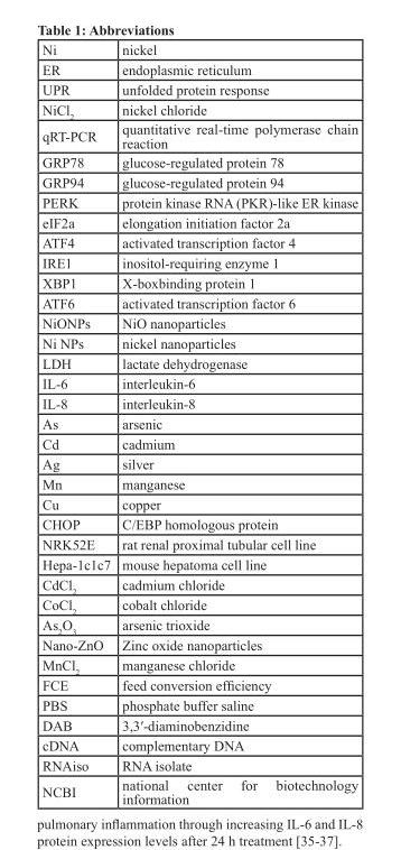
<table><tbody><tr><td>Ni</td><td>nickel</td></tr><tr><td>ER</td><td>endoplasmic reticulum</td></tr><tr><td>UPR</td><td>unfolded protein response</td></tr><tr><td>NiCl<sub>2</sub></td><td>nickel chloride</td></tr><tr><td>qRT-PCR</td><td>quantitative real-time polymerase chain reaction</td></tr><tr><td>GRP78</td><td>glucose-regulated protein 78</td></tr><tr><td>GRP94</td><td>glucose-regulated protein 94</td></tr><tr><td>PERK</td><td>protein kinase RNA (PKR)-like ER kinase</td></tr><tr><td>eIF2a</td><td>elongation initiation factor 2a</td></tr><tr><td>ATF4</td><td>activated transcription factor 4</td></tr><tr><td>IRE1</td><td>inositol-requiring enzyme 1</td></tr><tr><td>XBP1</td><td>X-boxbinding protein 1</td></tr><tr><td>ATF6</td><td>activated transcription factor 6</td></tr><tr><td>NiONPs</td><td>NiO nanoparticles</td></tr><tr><td>Ni NPs</td><td>nickel nanoparticles</td></tr><tr><td>LDH</td><td>lactate dehydrogenase</td></tr><tr><td>IL-6</td><td>interleukin-6</td></tr><tr><td>IL-8</td><td>interleukin-8</td></tr><tr><td>As</td><td>arsenic</td></tr><tr><td>Cd</td><td>cadmium</td></tr><tr><td>Ag</td><td>silver</td></tr><tr><td>Mn</td><td>manganese</td></tr><tr><td>Cu</td><td>copper</td></tr><tr><td>CHOP</td><td>C/EBP homologous protein</td></tr><tr><td>NRK52E</td><td>rat renal proximal tubular cell line</td></tr><tr><td>Hepa-1c1c7</td><td>mouse hepatoma cell line</td></tr><tr><td>CdCl<sub>2</sub></td><td>cadmium chloride</td></tr><tr><td>CoCl<sub>2</sub></td><td>cobalt chloride</td></tr><tr><td>As<sub>2</sub>O<sub>3</sub></td><td>arsenic trioxide</td></tr><tr><td>Nano-ZnO</td><td>Zinc oxide nanoparticles</td></tr><tr><td>MnCl<sub>2</sub></td><td>manganese chloride</td></tr><tr><td>FCE</td><td>feed conversion efficiency</td></tr><tr><td>PBS</td><td>phosphate buffer saline</td></tr><tr><td>DAB</td><td>3,3′-diaminobenzidine</td></tr><tr><td>cDNA</td><td>complementary DNA</td></tr><tr><td>RNAiso</td><td>RNA isolate</td></tr><tr><td>NCBI</td><td>national center for biotechnology information</td></tr></tbody></table>